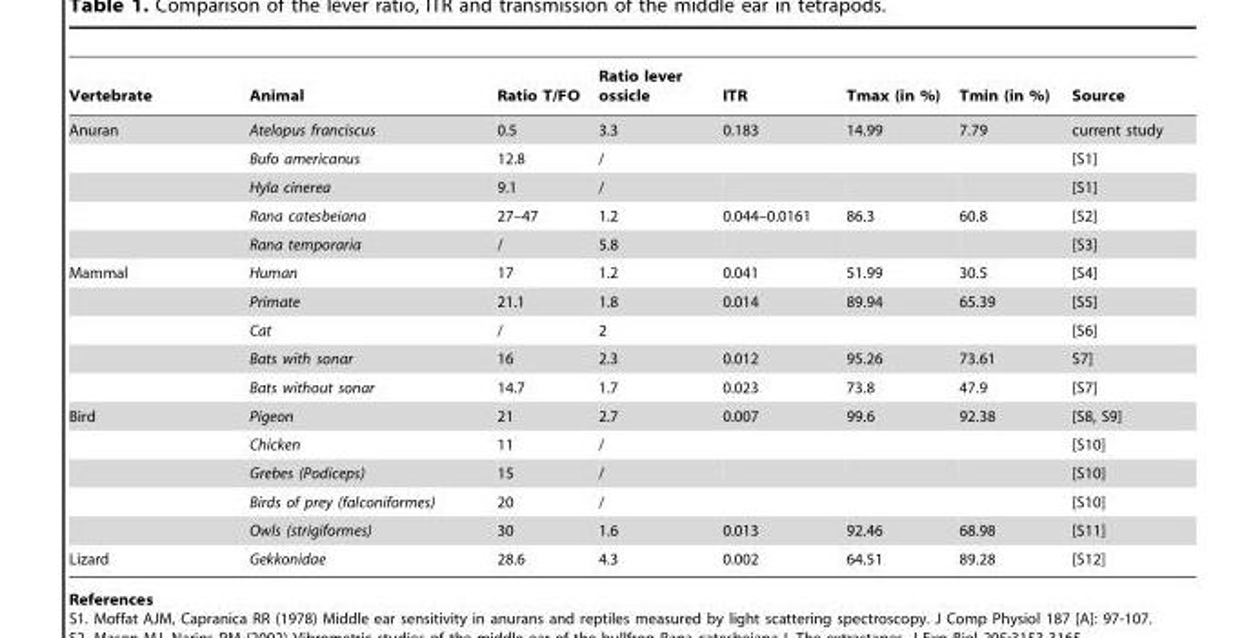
<table><thead><tr><td>Vertebrate</td><td>Animal</td><td>Ratio T/FO</td><td>Ratio lever ossicle</td><td>ITR</td><td>Tmax (in %)</td><td>Tmin (in %)</td><td>Source</td></tr></thead><tbody><tr><td rowspan="5">Anuran</td><td>Atelopus franciscus</td><td>0.5</td><td>3.3</td><td>0.183</td><td>14.99</td><td>7.79</td><td>current study</td></tr><tr><td>Bufo americanus</td><td>12.8</td><td>/</td><td></td><td></td><td></td><td>[S1]</td></tr><tr><td>Hyla cinerea</td><td>9.1</td><td>/</td><td></td><td></td><td></td><td>[S1]</td></tr><tr><td>Rana catesbeiana</td><td>27–47</td><td>1.2</td><td>0.044–0.0161</td><td>86.3</td><td>60.8</td><td>[S2]</td></tr><tr><td>Rana temporaria</td><td>/</td><td>5.8</td><td></td><td></td><td></td><td>[S3]</td></tr><tr><td rowspan="5">Mammal</td><td>Human</td><td>17</td><td>1.2</td><td>0.041</td><td>51.99</td><td>30.5</td><td>[S4]</td></tr><tr><td>Primate</td><td>21.1</td><td>1.8</td><td>0.014</td><td>89.94</td><td>65.39</td><td>[S5]</td></tr><tr><td>Cat</td><td>/</td><td>2</td><td></td><td></td><td></td><td>[S6]</td></tr><tr><td>Bats with sonar</td><td>16</td><td>2.3</td><td>0.012</td><td>95.26</td><td>73.61</td><td>S7]</td></tr><tr><td>Bats without sonar</td><td>14.7</td><td>1.7</td><td>0.023</td><td>73.8</td><td>47.9</td><td>[S7]</td></tr><tr><td rowspan="5">Bird</td><td>Pigeon</td><td>21</td><td>2.7</td><td>0.007</td><td>99.6</td><td>92.38</td><td>[S8, S9]</td></tr><tr><td>Chicken</td><td>11</td><td>/</td><td></td><td></td><td></td><td>[S10]</td></tr><tr><td>Grebes (Podiceps)</td><td>15</td><td>/</td><td></td><td></td><td></td><td>[S10]</td></tr><tr><td>Birds of prey (falconiformes)</td><td>20</td><td>/</td><td></td><td></td><td></td><td>[S10]</td></tr><tr><td>Owls (strigiformes)</td><td>30</td><td>1.6</td><td>0.013</td><td>92.46</td><td>68.98</td><td>[S11]</td></tr><tr><td>Lizard</td><td>Gekkonidae</td><td>28.6</td><td>4.3</td><td>0.002</td><td>64.51</td><td>89.28</td><td>[S12]</td></tr></tbody></table>